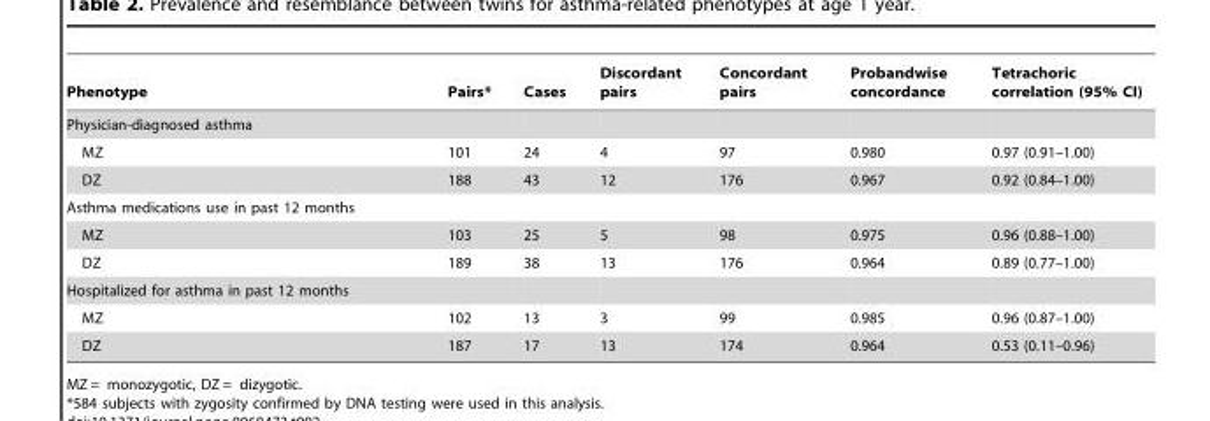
<table><thead><tr><td>Phenotype</td><td>Pairs*</td><td>Cases</td><td>Discordant pairs</td><td>Concordant pairs</td><td>Probandwise concordance</td><td>Tetrachoric correlation (95% CI)</td></tr></thead><tbody><tr><td colspan="7">Physician-diagnosed asthma</td></tr><tr><td>MZ</td><td>101</td><td>24</td><td>4</td><td>97</td><td>0.980</td><td>0.97 (0.91–1.00)</td></tr><tr><td>DZ</td><td>188</td><td>43</td><td>12</td><td>176</td><td>0.967</td><td>0.92 (0.84–1.00)</td></tr><tr><td colspan="7">Asthma medications use in past 12 months</td></tr><tr><td>MZ</td><td>103</td><td>25</td><td>5</td><td>98</td><td>0.975</td><td>0.96 (0.88–1.00)</td></tr><tr><td>DZ</td><td>189</td><td>38</td><td>13</td><td>176</td><td>0.964</td><td>0.89 (0.77–1.00)</td></tr><tr><td colspan="7">Hospitalized for asthma in past 12 months</td></tr><tr><td>MZ</td><td>102</td><td>13</td><td>3</td><td>99</td><td>0.985</td><td>0.96 (0.87–1.00)</td></tr><tr><td>DZ</td><td>187</td><td>17</td><td>13</td><td>174</td><td>0.964</td><td>0.53 (0.11–0.96)</td></tr></tbody></table>